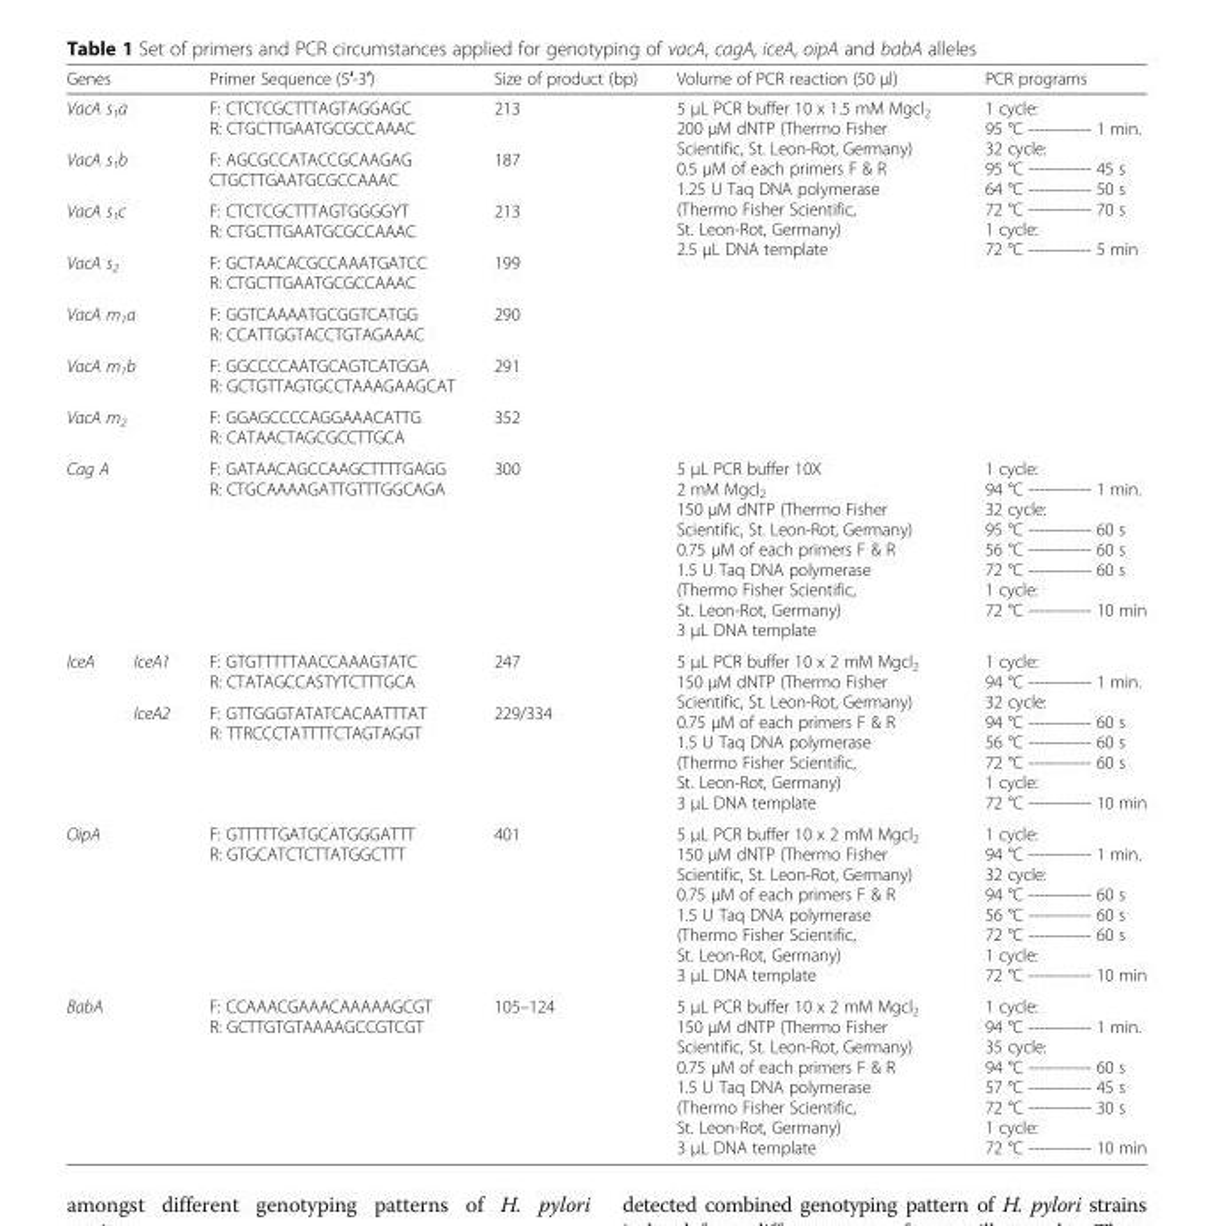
<table><thead><tr><td colspan="2">Genes</td><td>Primer Sequence (5′-3′)</td><td>Size of product (bp)</td><td>Volume of PCR reaction (50 μl)</td><td>PCR programs</td></tr></thead><tbody><tr><td colspan="2">VacA s<sub>1</sub>a</td><td>F: CTCTCGCTTTAGTAGGAGC R: CTGCTTGAATGCGCCAAAC</td><td>213</td><td rowspan="7">5 μL PCR buffer 10 x 1.5 mM Mgcl<sub>2</sub> 200 μM dNTP (Thermo Fisher Scientific, St. Leon-Rot, Germany) 0.5 μM of each primers F &amp; R 1.25 U Taq DNA polymerase (Thermo Fisher Scientific, St. Leon-Rot, Germany) 2.5 μL DNA template</td><td rowspan="7">1 cycle: 95 °C ------------ 1 min. 32 cycle: 95 °C ------------ 45 s 64 °C ------------ 50 s 72 °C ------------ 70 s 1 cycle: 72 °C ------------ 5 min</td></tr><tr><td colspan="2">VacA s<sub>1</sub>b</td><td>F: AGCGCCATACCGCAAGAG CTGCTTGAATGCGCCAAAC</td><td>187</td></tr><tr><td colspan="2">VacA s<sub>1</sub>c</td><td>F: CTCTCGCTTTAGTGGGGYT R: CTGCTTGAATGCGCCAAAC</td><td>213</td></tr><tr><td colspan="2">VacA s<sub>2</sub></td><td>F: GCTAACACGCCAAATGATCC R: CTGCTTGAATGCGCCAAAC</td><td>199</td></tr><tr><td colspan="2">VacA m<sub>1</sub>a</td><td>F: GGTCAAAATGCGGTCATGG R: CCATTGGTACCTGTAGAAAC</td><td>290</td></tr><tr><td colspan="2">VacA m<sub>1</sub>b</td><td>F: GGCCCCAATGCAGTCATGGA R: GCTGTTAGTGCCTAAAGAAGCAT</td><td>291</td></tr><tr><td colspan="2">VacA m<sub>2</sub></td><td>F: GGAGCCCCAGGAAACATTG R: CATAACTAGCGCCTTGCA</td><td>352</td></tr><tr><td colspan="2">Cag A</td><td>F: GATAACAGCCAAGCTTTTGAGG R: CTGCAAAAGATTGTTTGGCAGA</td><td>300</td><td>5 μL PCR buffer 10X 2 mM Mgcl<sub>2</sub> 150 μM dNTP (Thermo Fisher Scientific, St. Leon-Rot, Germany) 0.75 μM of each primers F &amp; R 1.5 U Taq DNA polymerase (Thermo Fisher Scientific, St. Leon-Rot, Germany) 3 μL DNA template</td><td>1 cycle: 94 °C ------------ 1 min. 32 cycle: 95 °C ------------ 60 s 56 °C ------------ 60 s 72 °C ------------ 60 s 1 cycle: 72 °C ------------ 10 min</td></tr><tr><td rowspan="2">IceA</td><td>IceA1</td><td>F: GTGTTTTTAACCAAAGTATC R: CTATAGCCASTYTCTTTGCA</td><td>247</td><td rowspan="2">5 μL PCR buffer 10 x 2 mM Mgcl<sub>2</sub> 150 μM dNTP (Thermo Fisher Scientific, St. Leon-Rot, Germany) 0.75 μM of each primers F &amp; R 1.5 U Taq DNA polymerase (Thermo Fisher Scientific, St. Leon-Rot, Germany) 3 μL DNA template</td><td rowspan="2">1 cycle: 94 °C ------------ 1 min. 32 cycle: 94 °C ------------ 60 s 56 °C ------------ 60 s 72 °C ------------ 60 s 1 cycle: 72 °C ------------ 10 min</td></tr><tr><td>IceA2</td><td>F: GTTGGGTATATCACAATTTAT R: TTRCCCTATTTTCTAGTAGGT</td><td>229/334</td></tr><tr><td colspan="2">OipA</td><td>F: GTTTTTGATGCATGGGATTT R: GTGCATCTCTTATGGCTTT</td><td>401</td><td>5 μL PCR buffer 10 x 2 mM Mgcl<sub>2</sub> 150 μM dNTP (Thermo Fisher Scientific, St. Leon-Rot, Germany) 0.75 μM of each primers F &amp; R 1.5 U Taq DNA polymerase (Thermo Fisher Scientific, St. Leon-Rot, Germany) 3 μL DNA template</td><td>1 cycle: 94 °C ------------ 1 min. 32 cycle: 94 °C ------------ 60 s 56 °C ------------ 60 s 72 °C ------------ 60 s 1 cycle: 72 °C ------------ 10 min</td></tr><tr><td colspan="2">BabA</td><td>F: CCAAACGAAACAAAAAGCGT R: GCTTGTGTAAAAGCCGTCGT</td><td>105–124</td><td>5 μL PCR buffer 10 x 2 mM Mgcl<sub>2</sub> 150 μM dNTP (Thermo Fisher Scientific, St. Leon-Rot, Germany) 0.75 μM of each primers F &amp; R 1.5 U Taq DNA polymerase (Thermo Fisher Scientific, St. Leon-Rot, Germany) 3 μL DNA template</td><td>1 cycle: 94 °C ------------ 1 min. 35 cycle: 94 °C ------------ 60 s 57 °C ------------ 45 s 72 °C ------------ 30 s 1 cycle: 72 °C ------------ 10 min</td></tr></tbody></table>